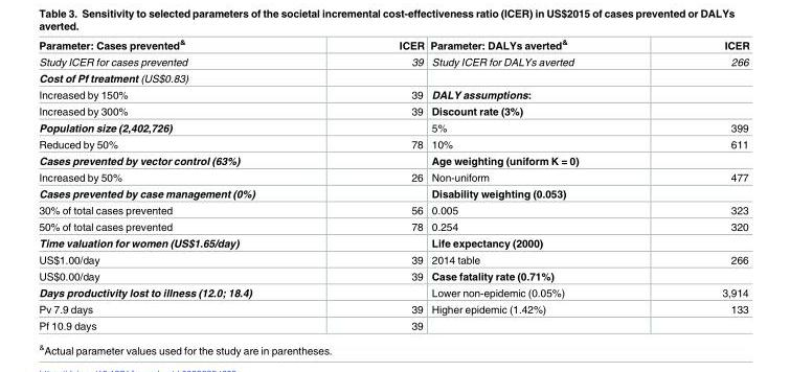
<table><thead><tr><td>Parameter: Cases prevented<sup>&amp;</sup></td><td>ICER</td><td>Parameter: DALYs averted<sup>&amp;</sup></td><td>ICER</td></tr></thead><tbody><tr><td>Study ICER for cases prevented</td><td>39</td><td>Study ICER for DALYs averted</td><td>266</td></tr><tr><td colspan="4">Cost of Pf treatment (US$0.83)</td></tr><tr><td>Increased by 150%</td><td>39</td><td>DALY assumptions:</td><td></td></tr><tr><td>Increased by 300%</td><td>39</td><td>Discount rate (3%)</td><td></td></tr><tr><td>Population size (2,402,726)</td><td></td><td>5%</td><td>399</td></tr><tr><td>Reduced by 50%</td><td>78</td><td>10%</td><td>611</td></tr><tr><td>Cases prevented by vector control (63%)</td><td></td><td>Age weighting (uniform K = 0)</td><td></td></tr><tr><td>Increased by 50%</td><td>26</td><td>Non-uniform</td><td>477</td></tr><tr><td>Cases prevented by case management (0%)</td><td></td><td>Disability weighting (0.053)</td><td></td></tr><tr><td>30% of total cases prevented</td><td>56</td><td>0.005</td><td>323</td></tr><tr><td>50% of total cases prevented</td><td>78</td><td>0.254</td><td>320</td></tr><tr><td>Time valuation for women (US$1.65/day)</td><td></td><td>Life expectancy (2000)</td><td></td></tr><tr><td>US$1.00/day</td><td>39</td><td>2014 table</td><td>266</td></tr><tr><td>US$0.00/day</td><td>39</td><td>Case fatality rate (0.71%)</td><td></td></tr><tr><td>Days productivity lost to illness (12.0; 18.4)</td><td></td><td>Lower non-epidemic (0.05%)</td><td>3,914</td></tr><tr><td>Pv 7.9 days</td><td>39</td><td>Higher epidemic (1.42%)</td><td>133</td></tr><tr><td>Pf 10.9 days</td><td>39</td><td></td><td></td></tr></tbody></table>